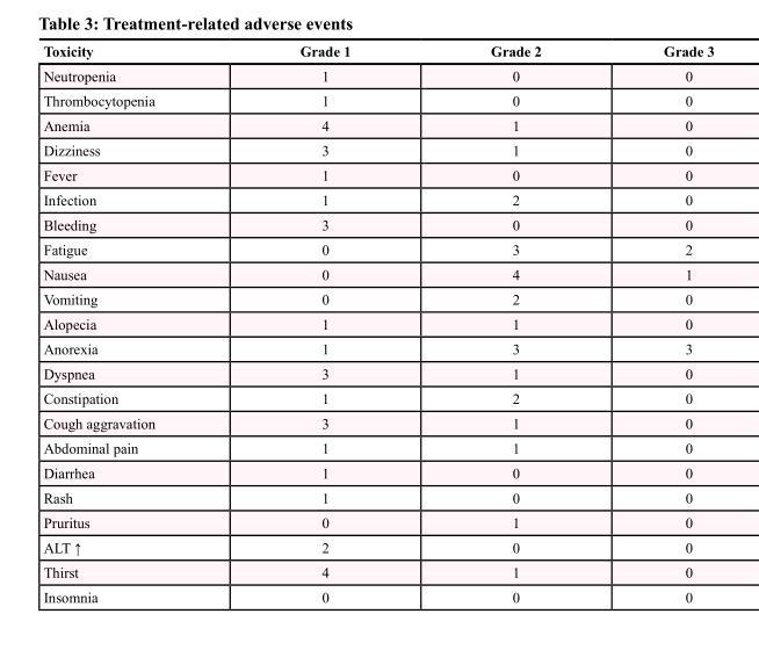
<table><thead><tr><td>Toxicity</td><td>Grade 1</td><td>Grade 2</td><td>Grade 3</td></tr></thead><tbody><tr><td>Neutropenia</td><td>1</td><td>0</td><td>0</td></tr><tr><td>Thrombocytopenia</td><td>1</td><td>0</td><td>0</td></tr><tr><td>Anemia</td><td>4</td><td>1</td><td>0</td></tr><tr><td>Dizziness</td><td>3</td><td>1</td><td>0</td></tr><tr><td>Fever</td><td>1</td><td>0</td><td>0</td></tr><tr><td>Infection</td><td>1</td><td>2</td><td>0</td></tr><tr><td>Bleeding</td><td>3</td><td>0</td><td>0</td></tr><tr><td>Fatigue</td><td>0</td><td>3</td><td>2</td></tr><tr><td>Nausea</td><td>0</td><td>4</td><td>1</td></tr><tr><td>Vomiting</td><td>0</td><td>2</td><td>0</td></tr><tr><td>Alopecia</td><td>1</td><td>1</td><td>0</td></tr><tr><td>Anorexia</td><td>1</td><td>3</td><td>3</td></tr><tr><td>Dyspnea</td><td>3</td><td>1</td><td>0</td></tr><tr><td>Constipation</td><td>1</td><td>2</td><td>0</td></tr><tr><td>Cough aggravation</td><td>3</td><td>1</td><td>0</td></tr><tr><td>Abdominal pain</td><td>1</td><td>1</td><td>0</td></tr><tr><td>Diarrhea</td><td>1</td><td>0</td><td>0</td></tr><tr><td>Rash</td><td>1</td><td>0</td><td>0</td></tr><tr><td>Pruritus</td><td>0</td><td>1</td><td>0</td></tr><tr><td>ALT ↑</td><td>2</td><td>0</td><td>0</td></tr><tr><td>Thirst</td><td>4</td><td>1</td><td>0</td></tr><tr><td>Insomnia</td><td>0</td><td>0</td><td>0</td></tr></tbody></table>